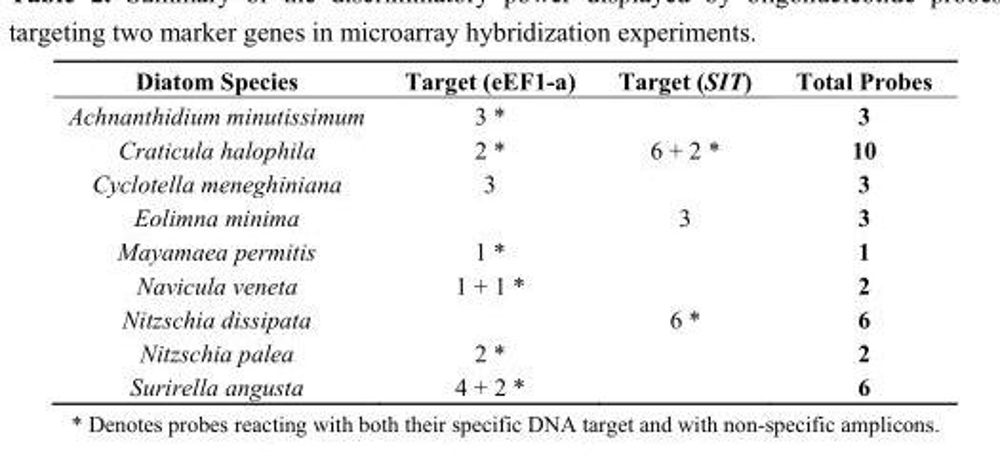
<table><thead><tr><td>Diatom Species</td><td>Target (eEF1-a)</td><td>Target (SIT)</td><td>Total Probes</td></tr></thead><tbody><tr><td>Achnanthidium minutissimum</td><td>3 *</td><td></td><td>3</td></tr><tr><td>Craticula halophila</td><td>2 *</td><td>6 + 2 *</td><td>10</td></tr><tr><td>Cyclotella meneghiniana</td><td>3</td><td></td><td>3</td></tr><tr><td>Eolimna minima</td><td></td><td>3</td><td>3</td></tr><tr><td>Mayamaea permitis</td><td>1 *</td><td></td><td>1</td></tr><tr><td>Navicula veneta</td><td>1 + 1 *</td><td></td><td>2</td></tr><tr><td>Nitzschia dissipata</td><td></td><td>6 *</td><td>6</td></tr><tr><td>Nitzschia palea</td><td>2 *</td><td></td><td>2</td></tr><tr><td>Surirella angusta</td><td>4 + 2 *</td><td></td><td>6</td></tr></tbody></table>